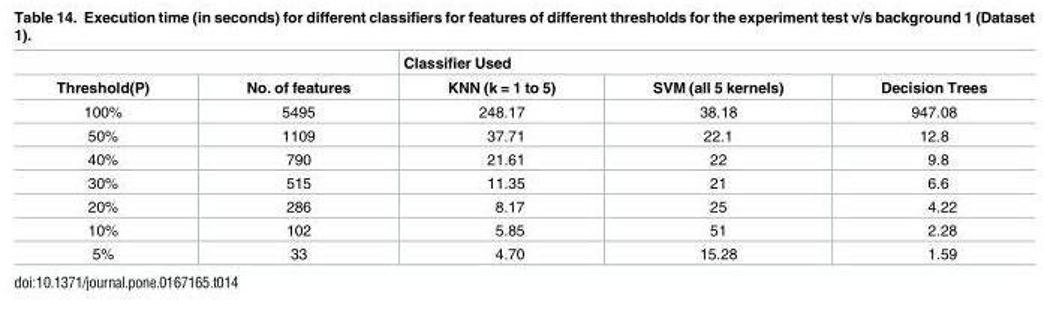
<table><thead><tr><td rowspan="2">Threshold(P)</td><td rowspan="2">No. of features</td><td colspan="3">Classifier Used</td></tr><tr><td>KNN (k = 1 to 5)</td><td>SVM (all 5 kernels)</td><td>Decision Trees</td></tr></thead><tbody><tr><td>100%</td><td>5495</td><td>248.17</td><td>38.18</td><td>947.08</td></tr><tr><td>50%</td><td>1109</td><td>37.71</td><td>22.1</td><td>12.8</td></tr><tr><td>40%</td><td>790</td><td>21.61</td><td>22</td><td>9.8</td></tr><tr><td>30%</td><td>515</td><td>11.35</td><td>21</td><td>6.6</td></tr><tr><td>20%</td><td>286</td><td>8.17</td><td>25</td><td>4.22</td></tr><tr><td>10%</td><td>102</td><td>5.85</td><td>51</td><td>2.28</td></tr><tr><td>5%</td><td>33</td><td>4.70</td><td>15.28</td><td>1.59</td></tr></tbody></table>